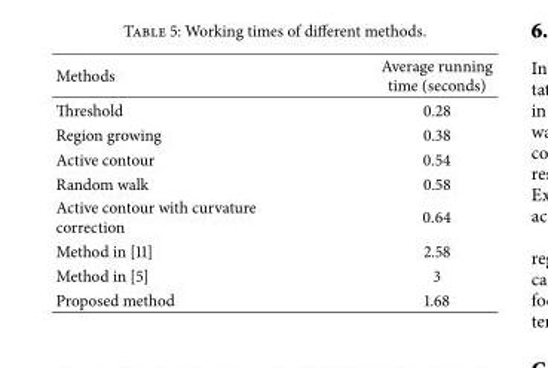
<table><thead><tr><td>Methods</td><td>Average running time (seconds)</td></tr></thead><tbody><tr><td>Threshold</td><td>0.28</td></tr><tr><td>Region growing</td><td>0.38</td></tr><tr><td>Active contour</td><td>0.54</td></tr><tr><td>Random walk</td><td>0.58</td></tr><tr><td>Active contour with curvature correction</td><td>0.64</td></tr><tr><td>Method in [11]</td><td>2.58</td></tr><tr><td>Method in [5]</td><td>3</td></tr><tr><td>Proposed method</td><td>1.68</td></tr></tbody></table>